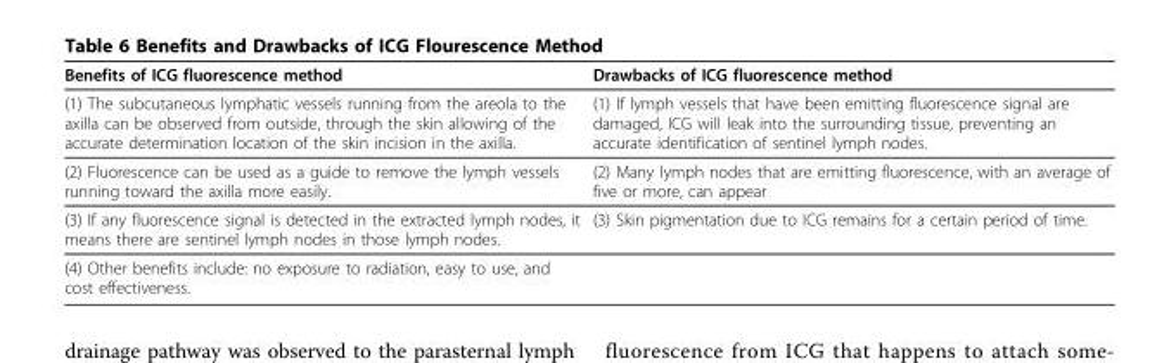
<table><thead><tr><td>Benefits of ICG fluorescence method</td><td>Drawbacks of ICG fluorescence method</td></tr></thead><tbody><tr><td>(1) The subcutaneous lymphatic vessels running from the areola to the axilla can be observed from outside, through the skin allowing of the accurate determination location of the skin incision in the axilla.</td><td>(1) If lymph vessels that have been emitting fluorescence signal are damaged, ICG will leak into the surrounding tissue, preventing an accurate identification of sentinel lymph nodes.</td></tr><tr><td>(2) Fluorescence can be used as a guide to remove the lymph vessels running toward the axilla more easily.</td><td>(2) Many lymph nodes that are emitting fluorescence, with an average of five or more, can appear</td></tr><tr><td>(3) If any fluorescence signal is detected in the extracted lymph nodes, it means there are sentinel lymph nodes in those lymph nodes.</td><td>(3) Skin pigmentation due to ICG remains for a certain period of time.</td></tr><tr><td>(4) Other benefits include: no exposure to radiation, easy to use, and cost effectiveness.</td><td></td></tr></tbody></table>